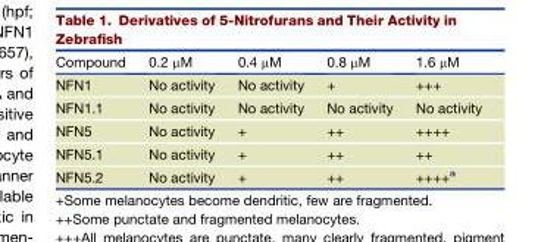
<table><thead><tr><td>Compound</td><td>0.2 μM</td><td>0.4 μM</td><td>0.8 μM</td><td>1.6 μM</td></tr></thead><tbody><tr><td>NFN1</td><td>No activity</td><td>No activity</td><td>+</td><td>+++</td></tr><tr><td>NFN1.1</td><td>No activity</td><td>No activity</td><td>No activity</td><td>No activity</td></tr><tr><td>NFN5</td><td>No activity</td><td>+</td><td>++</td><td>++++</td></tr><tr><td>NFN5.1</td><td>No activity</td><td>+</td><td>++</td><td>++</td></tr><tr><td>NFN5.2</td><td>No activity</td><td>+</td><td>++</td><td>++++<sup>a</sup></td></tr></tbody></table>